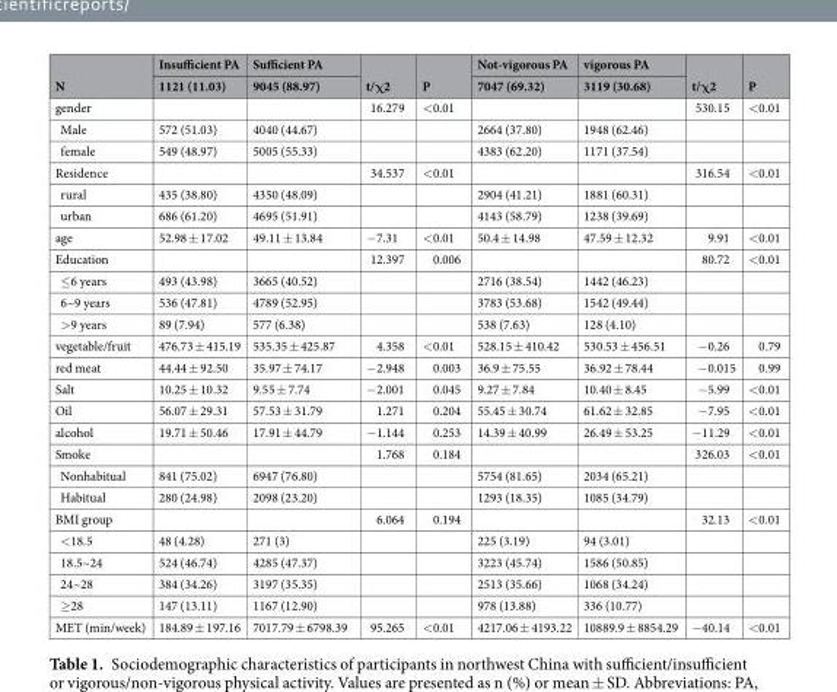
<table><thead><tr><td rowspan="2">N</td><td rowspan="2">Insufficient PA 1121 (11.03)</td><td rowspan="2">Sufficient PA 9045 (88.97)</td><td rowspan="2">t/χ2</td><td rowspan="2">P</td><td rowspan="2">Not-vigorous PA 7047 (69.32)</td><td rowspan="2">vigorous PA 3119 (30.68)</td><td rowspan="2">t/χ2</td><td rowspan="2">P</td></tr><tr></tr></thead><tbody><tr><td>gender</td><td></td><td></td><td>16.279</td><td>&lt;0.01</td><td></td><td></td><td>530.15</td><td>&lt;0.01</td></tr><tr><td>Male</td><td>572 (51.03)</td><td>4040 (44.67)</td><td></td><td></td><td>2664 (37.80)</td><td>1948 (62.46)</td><td></td><td></td></tr><tr><td>female</td><td>549 (48.97)</td><td>5005 (55.33)</td><td></td><td></td><td>4383 (62.20)</td><td>1171 (37.54)</td><td></td><td></td></tr><tr><td>Residence</td><td></td><td></td><td>34.537</td><td>&lt;0.01</td><td></td><td></td><td>316.54</td><td>&lt;0.01</td></tr><tr><td>rural</td><td>435 (38.80)</td><td>4350 (48.09)</td><td></td><td></td><td>2904 (41.21)</td><td>1881 (60.31)</td><td></td><td></td></tr><tr><td>urban</td><td>686 (61.20)</td><td>4695 (51.91)</td><td></td><td></td><td>4143 (58.79)</td><td>1238 (39.69)</td><td></td><td></td></tr><tr><td>age</td><td>52.98 ± 17.02</td><td>49.11 ± 13.84</td><td>−7.31</td><td>&lt;0.01</td><td>50.4 ± 14.98</td><td>47.59 ± 12.32</td><td>9.91</td><td>&lt;0.01</td></tr><tr><td>Education</td><td></td><td></td><td>12.397</td><td>0.006</td><td></td><td></td><td>80.72</td><td>&lt;0.01</td></tr><tr><td>≤6 years</td><td>493 (43.98)</td><td>3665 (40.52)</td><td></td><td></td><td>2716 (38.54)</td><td>1442 (46.23)</td><td></td><td></td></tr><tr><td>6~9 years</td><td>536 (47.81)</td><td>4789 (52.95)</td><td></td><td></td><td>3783 (53.68)</td><td>1542 (49.44)</td><td></td><td></td></tr><tr><td>&gt;9 years</td><td>89 (7.94)</td><td>577 (6.38)</td><td></td><td></td><td>538 (7.63)</td><td>128 (4.10)</td><td></td><td></td></tr><tr><td>vegetable/fruit</td><td>476.73 ± 415.19</td><td>535.35 ± 425.87</td><td>4.358</td><td>&lt;0.01</td><td>528.15 ± 410.42</td><td>530.53 ± 456.51</td><td>−0.26</td><td>0.79</td></tr><tr><td>red meat</td><td>44.44 ± 92.50</td><td>35.97 ± 74.17</td><td>−2.948</td><td>0.003</td><td>36.9 ± 75.55</td><td>36.92 ± 78.44</td><td>−0.015</td><td>0.99</td></tr><tr><td>Salt</td><td>10.25 ± 10.32</td><td>9.55 ± 7.74</td><td>−2.001</td><td>0.045</td><td>9.27 ± 7.84</td><td>10.40 ± 8.45</td><td>−5.99</td><td>&lt;0.01</td></tr><tr><td>Oil</td><td>56.07 ± 29.31</td><td>57.53 ± 31.79</td><td>1.271</td><td>0.204</td><td>55.45 ± 30.74</td><td>61.62 ± 32.85</td><td>−7.95</td><td>&lt;0.01</td></tr><tr><td>alcohol</td><td>19.71 ± 50.46</td><td>17.91 ± 44.79</td><td>−1.144</td><td>0.253</td><td>14.39 ± 40.99</td><td>26.49 ± 53.25</td><td>−11.29</td><td>&lt;0.01</td></tr><tr><td>Smoke</td><td></td><td></td><td>1.768</td><td>0.184</td><td></td><td></td><td>326.03</td><td>&lt;0.01</td></tr><tr><td>Nonhabitual</td><td>841 (75.02)</td><td>6947 (76.80)</td><td></td><td></td><td>5754 (81.65)</td><td>2034 (65.21)</td><td></td><td></td></tr><tr><td>Habitual</td><td>280 (24.98)</td><td>2098 (23.20)</td><td></td><td></td><td>1293 (18.35)</td><td>1085 (34.79)</td><td></td><td></td></tr><tr><td>BMI group</td><td></td><td></td><td>6.064</td><td>0.194</td><td></td><td></td><td>32.13</td><td>&lt;0.01</td></tr><tr><td>&lt;18.5</td><td>48 (4.28)</td><td>271 (3)</td><td></td><td></td><td>225 (3.19)</td><td>94 (3.01)</td><td></td><td></td></tr><tr><td>18.5~24</td><td>524 (46.74)</td><td>4285 (47.37)</td><td></td><td></td><td>3223 (45.74)</td><td>1586 (50.85)</td><td></td><td></td></tr><tr><td>24~28</td><td>384 (34.26)</td><td>3197 (35.35)</td><td></td><td></td><td>2513 (35.66)</td><td>1068 (34.24)</td><td></td><td></td></tr><tr><td>≥28</td><td>147 (13.11)</td><td>1167 (12.90)</td><td></td><td></td><td>978 (13.88)</td><td>336 (10.77)</td><td></td><td></td></tr><tr><td>MET (min/week)</td><td>184.89 ± 197.16</td><td>7017.79 ± 6798.39</td><td>95.265</td><td>&lt;0.01</td><td>4217.06 ± 4193.22</td><td>10889.9 ± 8854.29</td><td>−40.14</td><td>&lt;0.01</td></tr></tbody></table>